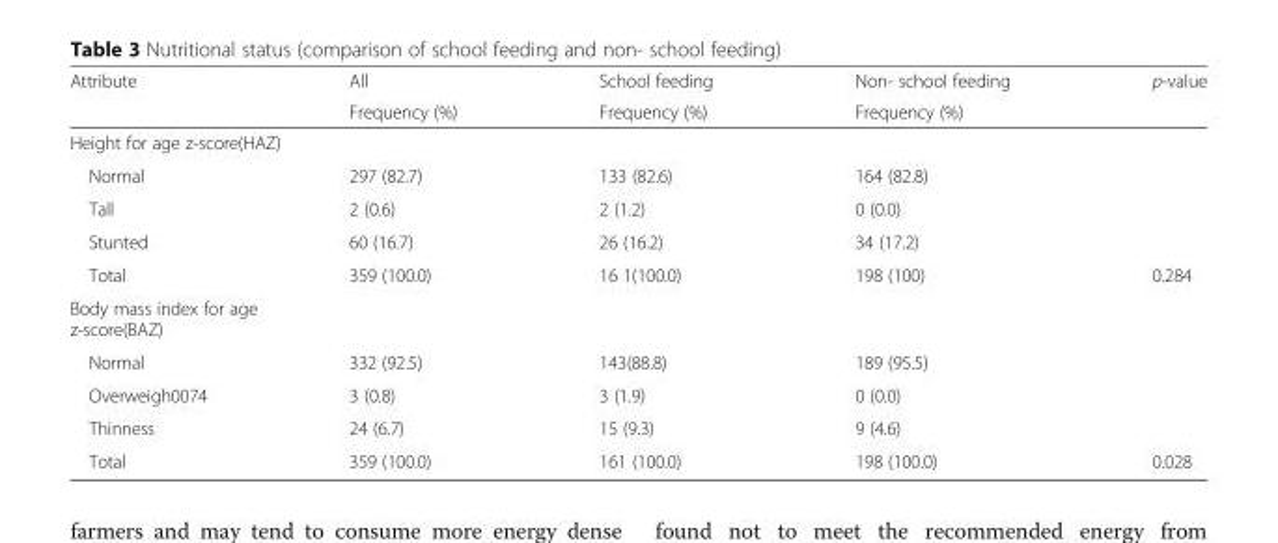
<table><thead><tr><td rowspan="2">Attribute</td><td rowspan="2">All Frequency (%)</td><td rowspan="2">School feeding Frequency (%)</td><td rowspan="2">Non- school feeding Frequency (%)</td><td rowspan="2">p-value</td></tr><tr></tr></thead><tbody><tr><td colspan="5">Height for age z-score(HAZ)</td></tr><tr><td>Normal</td><td>297 (82.7)</td><td>133 (82.6)</td><td>164 (82.8)</td><td></td></tr><tr><td>Tall</td><td>2 (0.6)</td><td>2 (1.2)</td><td>0 (0.0)</td><td></td></tr><tr><td>Stunted</td><td>60 (16.7)</td><td>26 (16.2)</td><td>34 (17.2)</td><td></td></tr><tr><td>Total</td><td>359 (100.0)</td><td>16 1(100.0)</td><td>198 (100)</td><td>0.284</td></tr><tr><td colspan="5">Body mass index for age z-score(BAZ)</td></tr><tr><td>Normal</td><td>332 (92.5)</td><td>143(88.8)</td><td>189 (95.5)</td><td></td></tr><tr><td>Overweigh0074</td><td>3 (0.8)</td><td>3 (1.9)</td><td>0 (0.0)</td><td></td></tr><tr><td>Thinness</td><td>24 (6.7)</td><td>15 (9.3)</td><td>9 (4.6)</td><td></td></tr><tr><td>Total</td><td>359 (100.0)</td><td>161 (100.0)</td><td>198 (100.0)</td><td>0.028</td></tr></tbody></table>